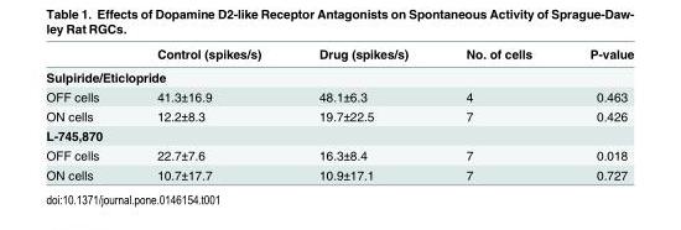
<table><thead><tr><td></td><td>Control (spikes/s)</td><td>Drug (spikes/s)</td><td>No. of cells</td><td>P-value</td></tr></thead><tbody><tr><td colspan="5">Sulpiride/Eticlopride</td></tr><tr><td>OFF cells</td><td>41.3±16.9</td><td>48.1±6.3</td><td>4</td><td>0.463</td></tr><tr><td>ON cells</td><td>12.2±8.3</td><td>19.7±22.5</td><td>7</td><td>0.426</td></tr><tr><td colspan="5">L-745,870</td></tr><tr><td>OFF cells</td><td>22.7±7.6</td><td>16.3±8.4</td><td>7</td><td>0.018</td></tr><tr><td>ON cells</td><td>10.7±17.7</td><td>10.9±17.1</td><td>7</td><td>0.727</td></tr></tbody></table>